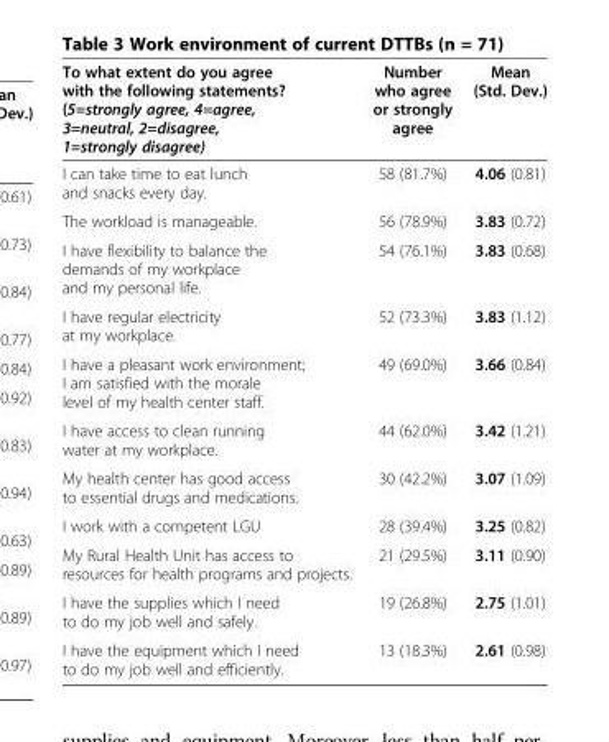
<table><thead><tr><td>To what extent do you agree with the following statements? (5=strongly agree, 4=agree, 3=neutral, 2=disagree, 1=strongly disagree)</td><td>Number who agree or strongly agree</td><td>Mean (Std. Dev.)</td></tr></thead><tbody><tr><td>I can take time to eat lunch and snacks every day.</td><td>58 (81.7%)</td><td>4.06 (0.81)</td></tr><tr><td>The workload is manageable.</td><td>56 (78.9%)</td><td>3.83 (0.72)</td></tr><tr><td>I have flexibility to balance the demands of my workplace and my personal life.</td><td>54 (76.1%)</td><td>3.83 (0.68)</td></tr><tr><td>I have regular electricity at my workplace.</td><td>52 (73.3%)</td><td>3.83 (1.12)</td></tr><tr><td>I have a pleasant work environment; I am satisfied with the morale level of my health center staff.</td><td>49 (69.0%)</td><td>3.66 (0.84)</td></tr><tr><td>I have access to clean running water at my workplace.</td><td>44 (62.0%)</td><td>3.42 (1.21)</td></tr><tr><td>My health center has good access to essential drugs and medications.</td><td>30 (42.2%)</td><td>3.07 (1.09)</td></tr><tr><td>I work with a competent LGU</td><td>28 (39.4%)</td><td>3.25 (0.82)</td></tr><tr><td>My Rural Health Unit has access to resources for health programs and projects.</td><td>21 (29.5%)</td><td>3.11 (0.90)</td></tr><tr><td>I have the supplies which I need to do my job well and safely.</td><td>19 (26.8%)</td><td>2.75 (1.01)</td></tr><tr><td>I have the equipment which I need to do my job well and efficiently.</td><td>13 (18.3%)</td><td>2.61 (0.98)</td></tr></tbody></table>